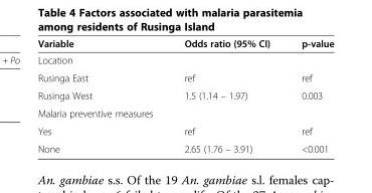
<table><thead><tr><td>Variable</td><td>Odds ratio (95% CI)</td><td>p-value</td></tr></thead><tbody><tr><td colspan="3">Location</td></tr><tr><td>Rusinga East</td><td>ref</td><td>ref</td></tr><tr><td>Rusinga West</td><td>1.5 (1.14 – 1.97)</td><td>0.003</td></tr><tr><td colspan="3">Malaria preventive measures</td></tr><tr><td>Yes</td><td>ref</td><td>ref</td></tr><tr><td>None</td><td>2.65 (1.76 – 3.91)</td><td>&lt;0.001</td></tr></tbody></table>